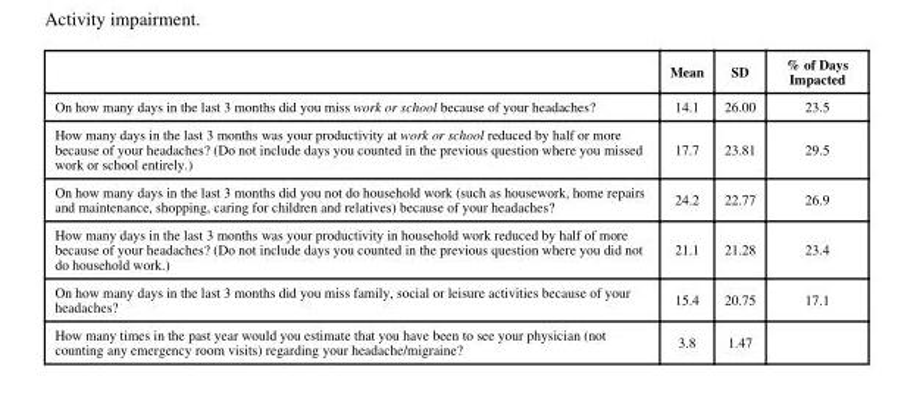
<table><thead><tr><td></td><td>Mean</td><td>SD</td><td>% of Days Impacted</td></tr></thead><tbody><tr><td>On how many days in the last 3 months did you miss work or school because of your headaches?</td><td>14.1</td><td>26.00</td><td>23.5</td></tr><tr><td>How many days in the last 3 months was your productivity at work or school reduced by half or more because of your headaches? (Do not include days you counted in the previous question where you missed work or school entirely.)</td><td>17.7</td><td>23.81</td><td>29.5</td></tr><tr><td>On how many days in the last 3 months did you not do household work (such as housework, home repairs and maintenance, shopping, caring for children and relatives) because of your headaches?</td><td>24.2</td><td>22.77</td><td>26.9</td></tr><tr><td>How many days in the last 3 months was your productivity in household work reduced by half of more because of your headaches? (Do not include days you counted in the previous question where you did not do household work.)</td><td>21.1</td><td>21.28</td><td>23.4</td></tr><tr><td>On how many days in the last 3 months did you miss family, social or leisure activities because of your headaches?</td><td>15.4</td><td>20.75</td><td>17.1</td></tr><tr><td>How many times in the past year would you estimate that you have been to see your physician (not counting any emergency room visits) regarding your headache/migraine?</td><td>3.8</td><td>1.47</td><td></td></tr></tbody></table>